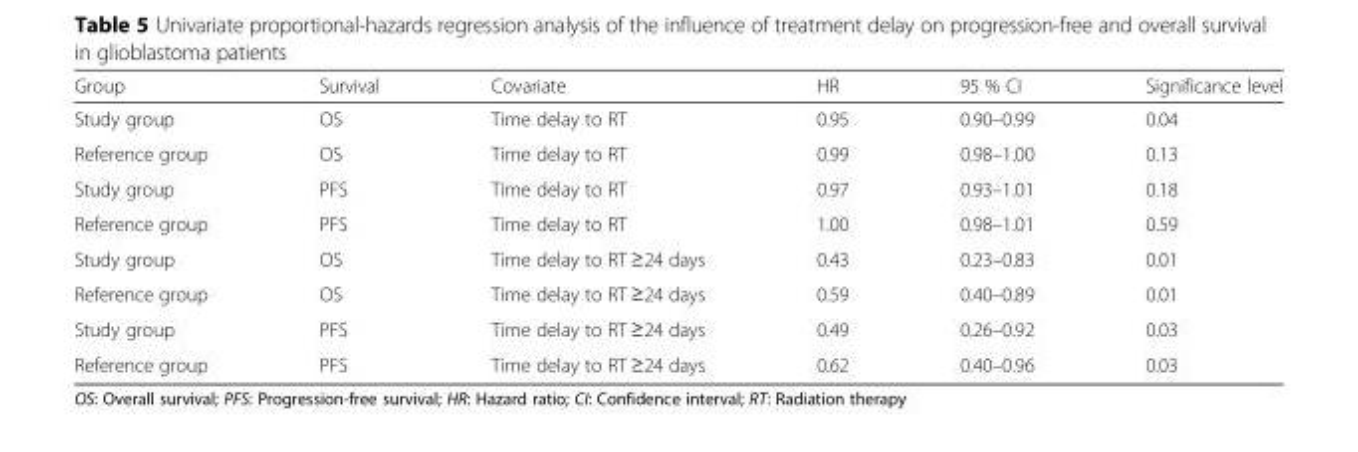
<table><thead><tr><td>Group</td><td>Survival</td><td>Covariate</td><td>HR</td><td>95 % CI</td><td>Significance level</td></tr></thead><tbody><tr><td>Study group</td><td>OS</td><td>Time delay to RT</td><td>0.95</td><td>0.90–0.99</td><td>0.04</td></tr><tr><td>Reference group</td><td>OS</td><td>Time delay to RT</td><td>0.99</td><td>0.98–1.00</td><td>0.13</td></tr><tr><td>Study group</td><td>PFS</td><td>Time delay to RT</td><td>0.97</td><td>0.93–1.01</td><td>0.18</td></tr><tr><td>Reference group</td><td>PFS</td><td>Time delay to RT</td><td>1.00</td><td>0.98–1.01</td><td>0.59</td></tr><tr><td>Study group</td><td>OS</td><td>Time delay to RT ≥24 days</td><td>0.43</td><td>0.23–0.83</td><td>0.01</td></tr><tr><td>Reference group</td><td>OS</td><td>Time delay to RT ≥24 days</td><td>0.59</td><td>0.40–0.89</td><td>0.01</td></tr><tr><td>Study group</td><td>PFS</td><td>Time delay to RT ≥24 days</td><td>0.49</td><td>0.26–0.92</td><td>0.03</td></tr><tr><td>Reference group</td><td>PFS</td><td>Time delay to RT ≥24 days</td><td>0.62</td><td>0.40–0.96</td><td>0.03</td></tr></tbody></table>